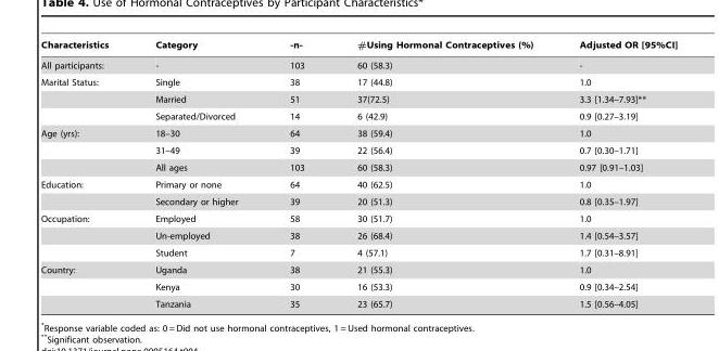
<table><thead><tr><td>Characteristics</td><td>Category</td><td>-n-</td><td>#Using Hormonal Contraceptives (%)</td><td>Adjusted OR [95%CI]</td></tr></thead><tbody><tr><td>All participants:</td><td>-</td><td>103</td><td>60 (58.3)</td><td>-</td></tr><tr><td rowspan="3">Marital Status:</td><td>Single</td><td>38</td><td>17 (44.8)</td><td>1.0</td></tr><tr><td>Married</td><td>51</td><td>37(72.5)</td><td>3.3 [1.34–7.93]**</td></tr><tr><td>Separated/Divorced</td><td>14</td><td>6 (42.9)</td><td>0.9 [0.27–3.19]</td></tr><tr><td rowspan="3">Age (yrs):</td><td>18–30</td><td>64</td><td>38 (59.4)</td><td>1.0</td></tr><tr><td>31–49</td><td>39</td><td>22 (56.4)</td><td>0.7 [0.30–1.71]</td></tr><tr><td>All ages</td><td>103</td><td>60 (58.3)</td><td>0.97 [0.91–1.03]</td></tr><tr><td rowspan="2">Education:</td><td>Primary or none</td><td>64</td><td>40 (62.5)</td><td>1.0</td></tr><tr><td>Secondary or higher</td><td>39</td><td>20 (51.3)</td><td>0.8 [0.35–1.97]</td></tr><tr><td rowspan="3">Occupation:</td><td>Employed</td><td>58</td><td>30 (51.7)</td><td>1.0</td></tr><tr><td>Un-employed</td><td>38</td><td>26 (68.4)</td><td>1.4 [0.54–3.57]</td></tr><tr><td>Student</td><td>7</td><td>4 (57.1)</td><td>1.7 [0.31–8.91]</td></tr><tr><td rowspan="3">Country:</td><td>Uganda</td><td>38</td><td>21 (55.3)</td><td>1.0</td></tr><tr><td>Kenya</td><td>30</td><td>16 (53.3)</td><td>0.9 [0.34–2.54]</td></tr><tr><td>Tanzania</td><td>35</td><td>23 (65.7)</td><td>1.5 [0.56–4.05]</td></tr></tbody></table>